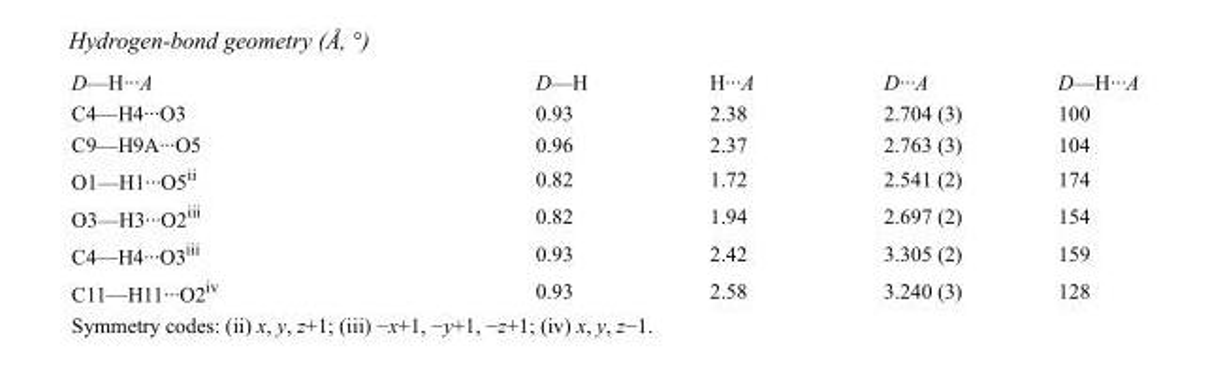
<table><tbody><tr><td>D—H···A</td><td>D—H</td><td>H···A</td><td>D···A</td><td>D—H···A</td></tr><tr><td>C4—H4···O3</td><td>0.93</td><td>2.38</td><td>2.704 (3)</td><td>100</td></tr><tr><td>C9—H9A···O5</td><td>0.96</td><td>2.37</td><td>2.763 (3)</td><td>104</td></tr><tr><td>O1—H1···O5<sup>ii</sup></td><td>0.82</td><td>1.72</td><td>2.541 (2)</td><td>174</td></tr><tr><td>O3—H3···O2<sup>iii</sup></td><td>0.82</td><td>1.94</td><td>2.697 (2)</td><td>154</td></tr><tr><td>C4—H4···O3<sup>iii</sup></td><td>0.93</td><td>2.42</td><td>3.305 (2)</td><td>159</td></tr><tr><td>C11—H11···O2<sup>iv</sup></td><td>0.93</td><td>2.58</td><td>3.240 (3)</td><td>128</td></tr></tbody></table>